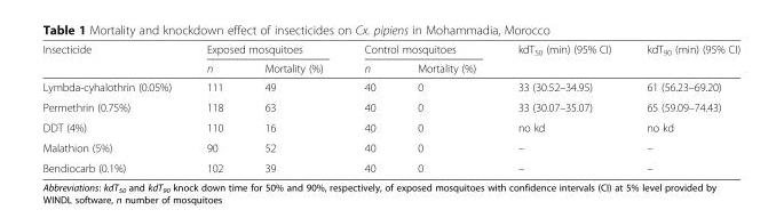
<table><thead><tr><td rowspan="2">Insecticide</td><td colspan="2">Exposed mosquitoes</td><td colspan="2">Control mosquitoes</td><td rowspan="2">kdT<sub>50</sub> (min) (95% CI)</td><td rowspan="2">kdT<sub>90</sub> (min) (95% CI)</td></tr><tr><td>n</td><td>Mortality (%)</td><td>n</td><td>Mortality (%)</td></tr></thead><tbody><tr><td>Lymbda-cyhalothrin (0.05%)</td><td>111</td><td>49</td><td>40</td><td>0</td><td>33 (30.52–34.95)</td><td>61 (56.23–69.20)</td></tr><tr><td>Permethrin (0.75%)</td><td>118</td><td>63</td><td>40</td><td>0</td><td>33 (30.07–35.07)</td><td>65 (59.09–74.43)</td></tr><tr><td>DDT (4%)</td><td>110</td><td>16</td><td>40</td><td>0</td><td>no kd</td><td>no kd</td></tr><tr><td>Malathion (5%)</td><td>90</td><td>52</td><td>40</td><td>0</td><td>–</td><td>–</td></tr><tr><td>Bendiocarb (0.1%)</td><td>102</td><td>39</td><td>40</td><td>0</td><td>–</td><td>–</td></tr></tbody></table>